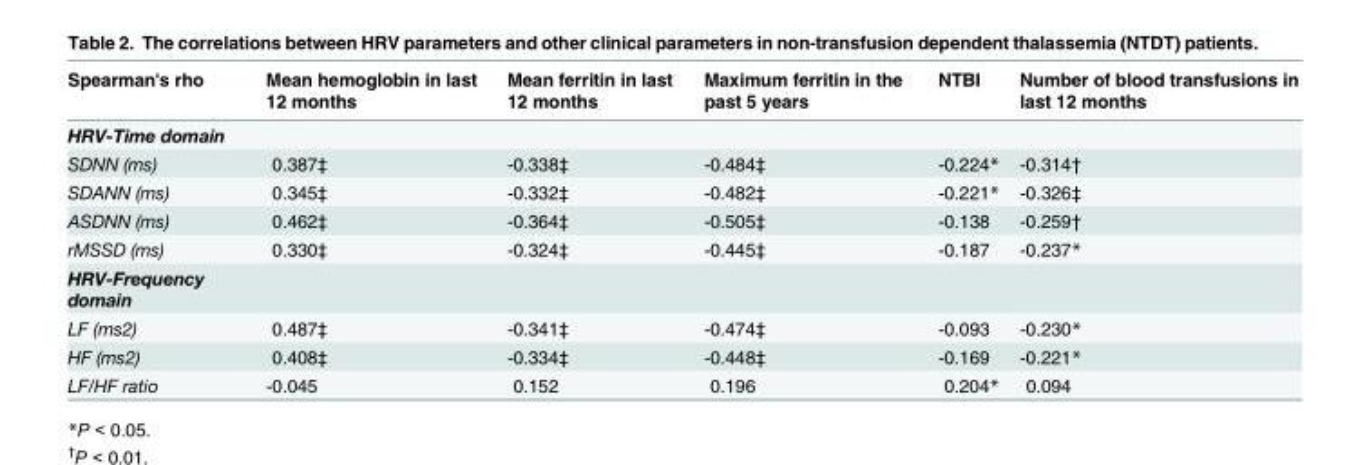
<table><thead><tr><td>Spearman&#x27;s rho</td><td>Mean hemoglobin in last 12 months</td><td>Mean ferritin in last 12 months</td><td>Maximum ferritin in the past 5 years</td><td>NTBI</td><td>Number of blood transfusions in last 12 months</td></tr></thead><tbody><tr><td colspan="6">HRV-Time domain</td></tr><tr><td>SDNN (ms)</td><td>0.387‡</td><td>-0.338‡</td><td>-0.484‡</td><td>-0.224*</td><td>-0.314†</td></tr><tr><td>SDANN (ms)</td><td>0.345‡</td><td>-0.332‡</td><td>-0.482‡</td><td>-0.221*</td><td>-0.326‡</td></tr><tr><td>ASDNN (ms)</td><td>0.462‡</td><td>-0.364‡</td><td>-0.505‡</td><td>-0.138</td><td>-0.259†</td></tr><tr><td>rMSSD (ms)</td><td>0.330‡</td><td>-0.324‡</td><td>-0.445‡</td><td>-0.187</td><td>-0.237*</td></tr><tr><td colspan="6">HRV-Frequency domain</td></tr><tr><td>LF (ms2)</td><td>0.487‡</td><td>-0.341‡</td><td>-0.474‡</td><td>-0.093</td><td>-0.230*</td></tr><tr><td>HF (ms2)</td><td>0.408‡</td><td>-0.334‡</td><td>-0.448‡</td><td>-0.169</td><td>-0.221*</td></tr><tr><td>LF/HF ratio</td><td>-0.045</td><td>0.152</td><td>0.196</td><td>0.204*</td><td>0.094</td></tr></tbody></table>